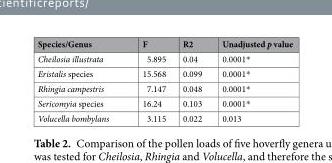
<table><thead><tr><td>Species/Genus</td><td>F</td><td>R2</td><td>Unadjusted p value</td></tr></thead><tbody><tr><td>Cheilosia illustrata</td><td>5.895</td><td>0.04</td><td>0.0001*</td></tr><tr><td>Eristalis species</td><td>15.568</td><td>0.099</td><td>0.0001*</td></tr><tr><td>Rhingia campestris</td><td>7.147</td><td>0.048</td><td>0.0001*</td></tr><tr><td>Sericomyia species</td><td>16.24</td><td>0.103</td><td>0.0001*</td></tr><tr><td>Volucella bombylans</td><td>3.115</td><td>0.022</td><td>0.013</td></tr></tbody></table>